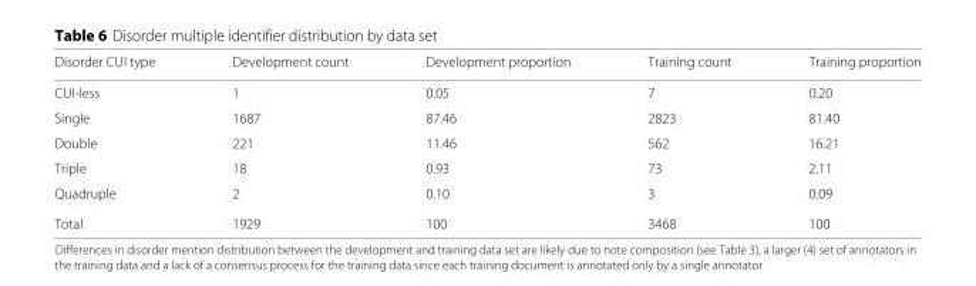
<table><thead><tr><td>Disorder CUI type</td><td>Development count</td><td>Development proportion</td><td>Training count</td><td>Training proportion</td></tr></thead><tbody><tr><td>CUI-less</td><td>1</td><td>0.05</td><td>7</td><td>0.20</td></tr><tr><td>Single</td><td>1687</td><td>87.46</td><td>2823</td><td>81.40</td></tr><tr><td>Double</td><td>221</td><td>11.46</td><td>562</td><td>16.21</td></tr><tr><td>Triple</td><td>18</td><td>0.93</td><td>73</td><td>2.11</td></tr><tr><td>Quadruple</td><td>2</td><td>0.10</td><td>3</td><td>0.09</td></tr><tr><td>Total</td><td>1929</td><td>100</td><td>3468</td><td>100</td></tr></tbody></table>